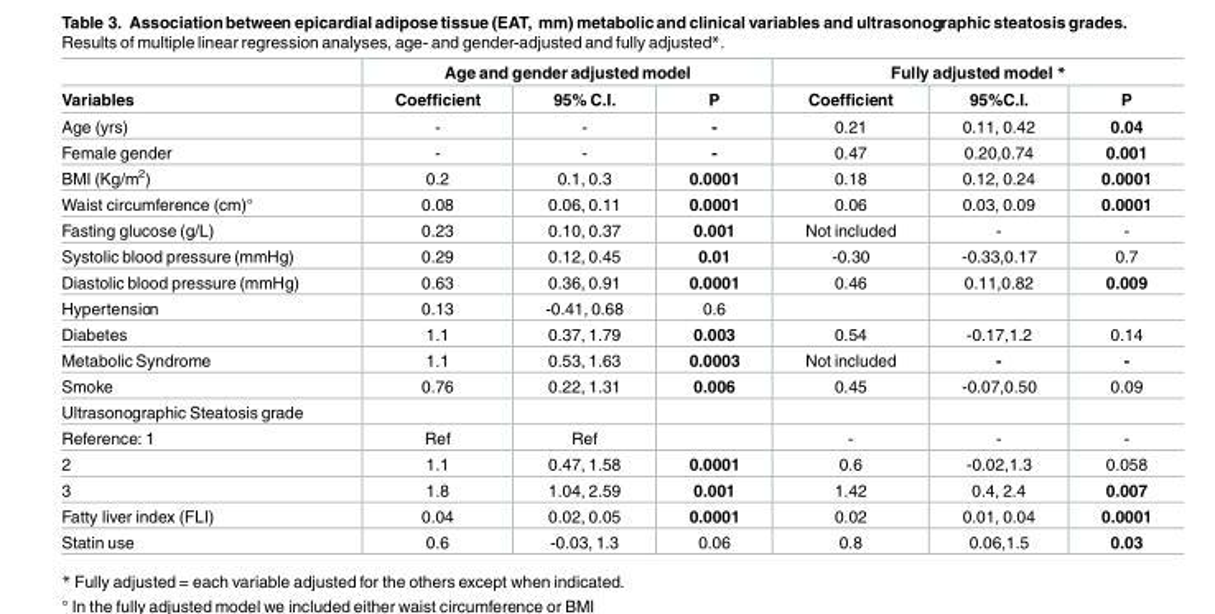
<table><thead><tr><td rowspan="2">Variables</td><td colspan="3">Age and gender adjusted model</td><td colspan="3">Fully adjusted model *</td></tr><tr><td>Coefficient</td><td>95% C.I.</td><td>P</td><td>Coefficient</td><td>95%C.I.</td><td>P</td></tr></thead><tbody><tr><td>Age (yrs)</td><td>-</td><td>-</td><td>-</td><td>0.21</td><td>0.11, 0.42</td><td>0.04</td></tr><tr><td>Female gender</td><td>-</td><td>-</td><td>-</td><td>0.47</td><td>0.20,0.74</td><td>0.001</td></tr><tr><td>BMI (Kg/m<sup>2</sup>)</td><td>0.2</td><td>0.1, 0.3</td><td>0.0001</td><td>0.18</td><td>0.12, 0.24</td><td>0.0001</td></tr><tr><td>Waist circumference (cm)°</td><td>0.08</td><td>0.06, 0.11</td><td>0.0001</td><td>0.06</td><td>0.03, 0.09</td><td>0.0001</td></tr><tr><td>Fasting glucose (g/L)</td><td>0.23</td><td>0.10, 0.37</td><td>0.001</td><td>Not included</td><td>-</td><td>-</td></tr><tr><td>Systolic blood pressure (mmHg)</td><td>0.29</td><td>0.12, 0.45</td><td>0.01</td><td>-0.30</td><td>-0.33,0.17</td><td>0.7</td></tr><tr><td>Diastolic blood pressure (mmHg)</td><td>0.63</td><td>0.36, 0.91</td><td>0.0001</td><td>0.46</td><td>0.11,0.82</td><td>0.009</td></tr><tr><td>Hypertension</td><td>0.13</td><td>-0.41, 0.68</td><td>0.6</td><td></td><td></td><td></td></tr><tr><td>Diabetes</td><td>1.1</td><td>0.37, 1.79</td><td>0.003</td><td>0.54</td><td>-0.17,1.2</td><td>0.14</td></tr><tr><td>Metabolic Syndrome</td><td>1.1</td><td>0.53, 1.63</td><td>0.0003</td><td>Not included</td><td>-</td><td>-</td></tr><tr><td>Smoke</td><td>0.76</td><td>0.22, 1.31</td><td>0.006</td><td>0.45</td><td>-0.07,0.50</td><td>0.09</td></tr><tr><td colspan="7">Ultrasonographic Steatosis grade</td></tr><tr><td>Reference: 1</td><td>Ref</td><td>Ref</td><td></td><td>-</td><td>-</td><td>-</td></tr><tr><td>2</td><td>1.1</td><td>0.47, 1.58</td><td>0.0001</td><td>0.6</td><td>-0.02,1.3</td><td>0.058</td></tr><tr><td>3</td><td>1.8</td><td>1.04, 2.59</td><td>0.001</td><td>1.42</td><td>0.4, 2.4</td><td>0.007</td></tr><tr><td>Fatty liver index (FLI)</td><td>0.04</td><td>0.02, 0.05</td><td>0.0001</td><td>0.02</td><td>0.01, 0.04</td><td>0.0001</td></tr><tr><td>Statin use</td><td>0.6</td><td>-0.03, 1.3</td><td>0.06</td><td>0.8</td><td>0.06,1.5</td><td>0.03</td></tr></tbody></table>